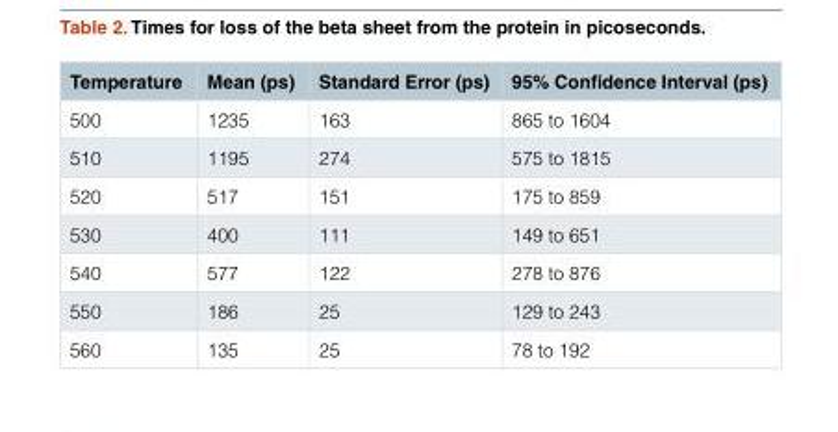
<table><thead><tr><td>Temperature</td><td>Mean (ps)</td><td>Standard Error (ps)</td><td>95% Confidence Interval (ps)</td></tr></thead><tbody><tr><td>500</td><td>1235</td><td>163</td><td>865 to 1604</td></tr><tr><td>510</td><td>1195</td><td>274</td><td>575 to 1815</td></tr><tr><td>520</td><td>517</td><td>151</td><td>175 to 859</td></tr><tr><td>530</td><td>400</td><td>111</td><td>149 to 651</td></tr><tr><td>540</td><td>577</td><td>122</td><td>278 to 876</td></tr><tr><td>550</td><td>186</td><td>25</td><td>129 to 243</td></tr><tr><td>560</td><td>135</td><td>25</td><td>78 to 192</td></tr></tbody></table>